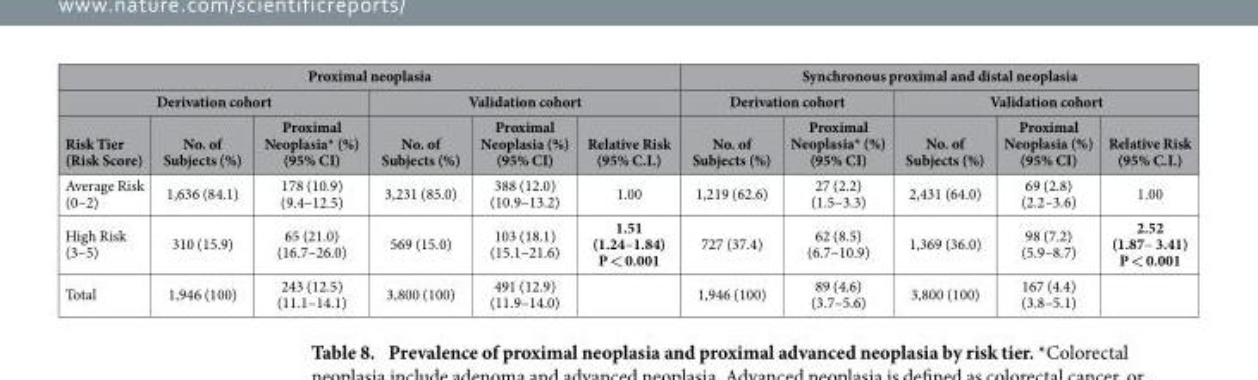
<table><thead><tr><td colspan="6">Proximal neoplasia</td><td colspan="5">Synchronous proximal and distal neoplasia</td></tr><tr><td colspan="3">Derivation cohort</td><td colspan="3">Validation cohort</td><td colspan="2">Derivation cohort</td><td colspan="3">Validation cohort</td></tr><tr><td>Risk Tier (Risk Score)</td><td>No. of Subjects (%)</td><td>Proximal Neoplasia* (%) (95% CI)</td><td>No. of Subjects (%)</td><td>Proximal Neoplasia (%) (95% CI)</td><td>Relative Risk (95% C.I.)</td><td>No. of Subjects (%)</td><td>Proximal Neoplasia* (%) (95% CI)</td><td>No. of Subjects (%)</td><td>Proximal Neoplasia (%) (95% CI)</td><td>Relative Risk (95% C.I.)</td></tr></thead><tbody><tr><td>Average Risk (0–2)</td><td>1,636 (84.1)</td><td>178 (10.9) (9.4–12.5)</td><td>3,231 (85.0)</td><td>388 (12.0) (10.9–13.2)</td><td>1.00</td><td>1,219 (62.6)</td><td>27 (2.2) (1.5–3.3)</td><td>2,431 (64.0)</td><td>69 (2.8) (2.2–3.6)</td><td>1.00</td></tr><tr><td>High Risk (3–5)</td><td>310 (15.9)</td><td>65 (21.0) (16.7–26.0)</td><td>569 (15.0)</td><td>103 (18.1) (15.1–21.6)</td><td>1.51 (1.24–1.84) P &lt; 0.001</td><td>727 (37.4)</td><td>62 (8.5) (6.7–10.9)</td><td>1,369 (36.0)</td><td>98 (7.2) (5.9–8.7)</td><td>2.52 (1.87– 3.41) P &lt; 0.001</td></tr><tr><td>Total</td><td>1,946 (100)</td><td>243 (12.5) (11.1–14.1)</td><td>3,800 (100)</td><td>491 (12.9) (11.9–14.0)</td><td></td><td>1,946 (100)</td><td>89 (4.6) (3.7–5.6)</td><td>3,800 (100)</td><td>167 (4.4) (3.8–5.1)</td><td></td></tr></tbody></table>